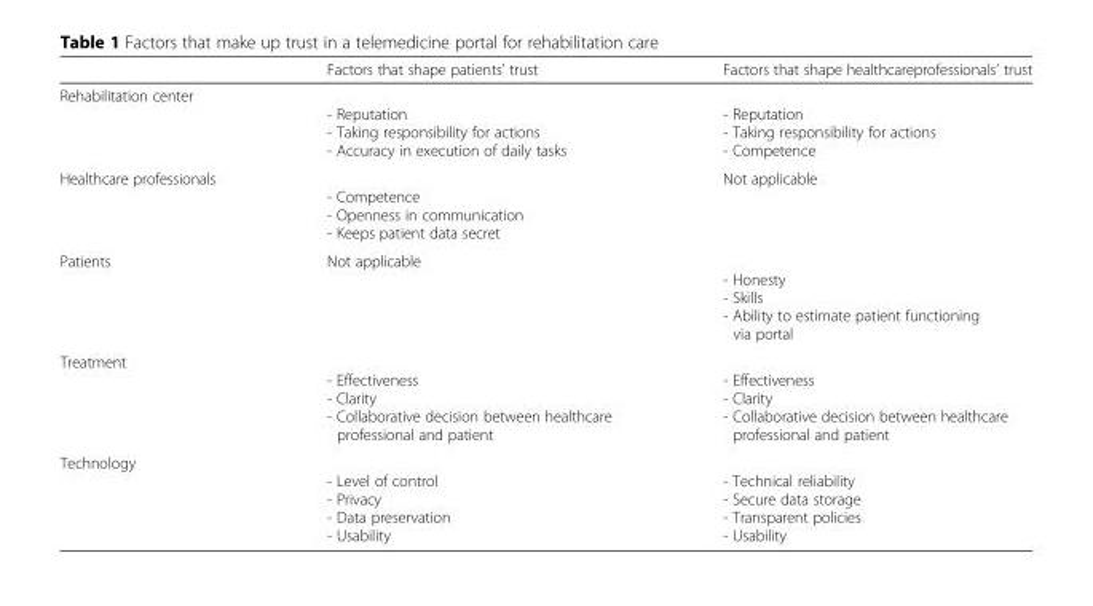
<table><thead><tr><td></td><td>Factors that shape patients’ trust</td><td>Factors that shape healthcareprofessionals’ trust</td></tr></thead><tbody><tr><td>Rehabilitation center</td><td>- Reputation - Taking responsibility for actions - Accuracy in execution of daily tasks</td><td>- Reputation - Taking responsibility for actions - Competence</td></tr><tr><td>Healthcare professionals</td><td>- Competence - Openness in communication - Keeps patient data secret</td><td>Not applicable</td></tr><tr><td>Patients</td><td>Not applicable</td><td>- Honesty - Skills - Ability to estimate patient functioning via portal</td></tr><tr><td>Treatment</td><td>- Effectiveness - Clarity - Collaborative decision between healthcare professional and patient</td><td>- Effectiveness - Clarity - Collaborative decision between healthcare professional and patient</td></tr><tr><td>Technology</td><td>- Level of control - Privacy - Data preservation - Usability</td><td>- Technical reliability - Secure data storage - Transparent policies - Usability</td></tr></tbody></table>